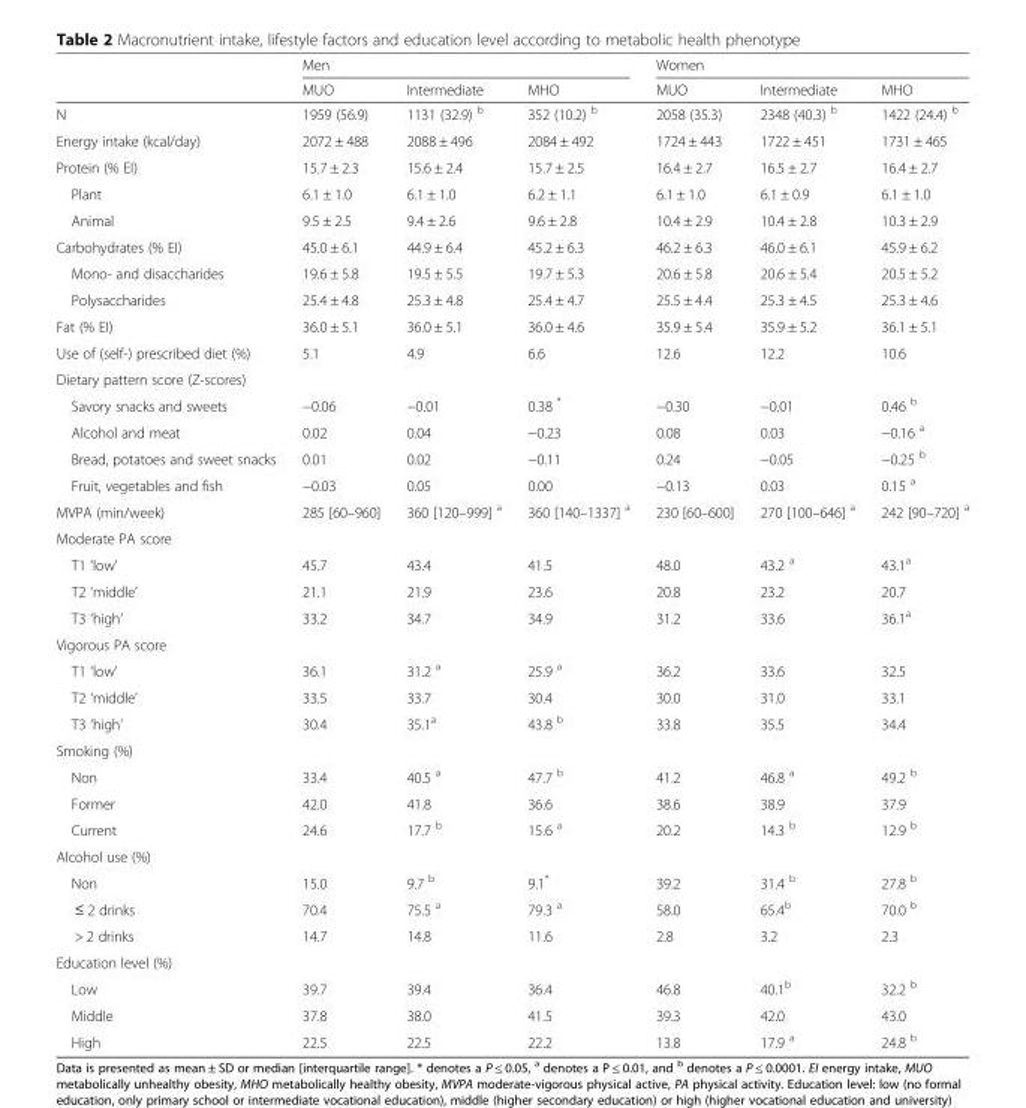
<table><thead><tr><td rowspan="2"></td><td colspan="3">Men</td><td colspan="3">Women</td></tr><tr><td>MUO</td><td>Intermediate</td><td>MHO</td><td>MUO</td><td>Intermediate</td><td>MHO</td></tr></thead><tbody><tr><td>N</td><td>1959 (56.9)</td><td>1131 (32.9) <sup>b</sup></td><td>352 (10.2) <sup>b</sup></td><td>2058 (35.3)</td><td>2348 (40.3) <sup>b</sup></td><td>1422 (24.4) <sup>b</sup></td></tr><tr><td>Energy intake (kcal/day)</td><td>2072 ± 488</td><td>2088 ± 496</td><td>2084 ± 492</td><td>1724 ± 443</td><td>1722 ± 451</td><td>1731 ± 465</td></tr><tr><td>Protein (% EI)</td><td>15.7 ± 2.3</td><td>15.6 ± 2.4</td><td>15.7 ± 2.5</td><td>16.4 ± 2.7</td><td>16.5 ± 2.7</td><td>16.4 ± 2.7</td></tr><tr><td>Plant</td><td>6.1 ± 1.0</td><td>6.1 ± 1.0</td><td>6.2 ± 1.1</td><td>6.1 ± 1.0</td><td>6.1 ± 0.9</td><td>6.1 ± 1.0</td></tr><tr><td>Animal</td><td>9.5 ± 2.5</td><td>9.4 ± 2.6</td><td>9.6 ± 2.8</td><td>10.4 ± 2.9</td><td>10.4 ± 2.8</td><td>10.3 ± 2.9</td></tr><tr><td>Carbohydrates (% EI)</td><td>45.0 ± 6.1</td><td>44.9 ± 6.4</td><td>45.2 ± 6.3</td><td>46.2 ± 6.3</td><td>46.0 ± 6.1</td><td>45.9 ± 6.2</td></tr><tr><td>Mono- and disaccharides</td><td>19.6 ± 5.8</td><td>19.5 ± 5.5</td><td>19.7 ± 5.3</td><td>20.6 ± 5.8</td><td>20.6 ± 5.4</td><td>20.5 ± 5.2</td></tr><tr><td>Polysaccharides</td><td>25.4 ± 4.8</td><td>25.3 ± 4.8</td><td>25.4 ± 4.7</td><td>25.5 ± 4.4</td><td>25.3 ± 4.5</td><td>25.3 ± 4.6</td></tr><tr><td>Fat (% EI)</td><td>36.0 ± 5.1</td><td>36.0 ± 5.1</td><td>36.0 ± 4.6</td><td>35.9 ± 5.4</td><td>35.9 ± 5.2</td><td>36.1 ± 5.1</td></tr><tr><td>Use of (self-) prescribed diet (%)</td><td>5.1</td><td>4.9</td><td>6.6</td><td>12.6</td><td>12.2</td><td>10.6</td></tr><tr><td colspan="7">Dietary pattern score (Z-scores)</td></tr><tr><td>Savory snacks and sweets</td><td>−0.06</td><td>−0.01</td><td>0.38 *</td><td>−0.30</td><td>−0.01</td><td>0.46 <sup>b</sup></td></tr><tr><td>Alcohol and meat</td><td>0.02</td><td>0.04</td><td>−0.23</td><td>0.08</td><td>0.03</td><td>−0.16 <sup>a</sup></td></tr><tr><td>Bread, potatoes and sweet snacks</td><td>0.01</td><td>0.02</td><td>−0.11</td><td>0.24</td><td>−0.05</td><td>−0.25 <sup>b</sup></td></tr><tr><td>Fruit, vegetables and fish</td><td>−0.03</td><td>0.05</td><td>0.00</td><td>−0.13</td><td>0.03</td><td>0.15 <sup>a</sup></td></tr><tr><td>MVPA (min/week)</td><td>285 [60–960]</td><td>360 [120–999] <sup>a</sup></td><td>360 [140–1337] <sup>a</sup></td><td>230 [60–600]</td><td>270 [100–646] <sup>a</sup></td><td>242 [90–720] <sup>a</sup></td></tr><tr><td colspan="7">Moderate PA score</td></tr><tr><td>T1 ‘low’</td><td>45.7</td><td>43.4</td><td>41.5</td><td>48.0</td><td>43.2 <sup>a</sup></td><td>43.1<sup>a</sup></td></tr><tr><td>T2 ‘middle’</td><td>21.1</td><td>21.9</td><td>23.6</td><td>20.8</td><td>23.2</td><td>20.7</td></tr><tr><td>T3 ‘high’</td><td>33.2</td><td>34.7</td><td>34.9</td><td>31.2</td><td>33.6</td><td>36.1<sup>a</sup></td></tr><tr><td colspan="7">Vigorous PA score</td></tr><tr><td>T1 ‘low’</td><td>36.1</td><td>31.2 <sup>a</sup></td><td>25.9 <sup>a</sup></td><td>36.2</td><td>33.6</td><td>32.5</td></tr><tr><td>T2 ‘middle’</td><td>33.5</td><td>33.7</td><td>30.4</td><td>30.0</td><td>31.0</td><td>33.1</td></tr><tr><td>T3 ‘high’</td><td>30.4</td><td>35.1<sup>a</sup></td><td>43.8 <sup>b</sup></td><td>33.8</td><td>35.5</td><td>34.4</td></tr><tr><td colspan="7">Smoking (%)</td></tr><tr><td>Non</td><td>33.4</td><td>40.5 <sup>a</sup></td><td>47.7 <sup>b</sup></td><td>41.2</td><td>46.8 <sup>a</sup></td><td>49.2 <sup>b</sup></td></tr><tr><td>Former</td><td>42.0</td><td>41.8</td><td>36.6</td><td>38.6</td><td>38.9</td><td>37.9</td></tr><tr><td>Current</td><td>24.6</td><td>17.7 <sup>b</sup></td><td>15.6 <sup>a</sup></td><td>20.2</td><td>14.3 <sup>b</sup></td><td>12.9 <sup>b</sup></td></tr><tr><td colspan="7">Alcohol use (%)</td></tr><tr><td>Non</td><td>15.0</td><td>9.7 <sup>b</sup></td><td>9.1*</td><td>39.2</td><td>31.4 <sup>b</sup></td><td>27.8 <sup>b</sup></td></tr><tr><td>≤ 2 drinks</td><td>70.4</td><td>75.5 <sup>a</sup></td><td>79.3 <sup>a</sup></td><td>58.0</td><td>65.4<sup>b</sup></td><td>70.0 <sup>b</sup></td></tr><tr><td>&gt; 2 drinks</td><td>14.7</td><td>14.8</td><td>11.6</td><td>2.8</td><td>3.2</td><td>2.3</td></tr><tr><td colspan="7">Education level (%)</td></tr><tr><td>Low</td><td>39.7</td><td>39.4</td><td>36.4</td><td>46.8</td><td>40.1<sup>b</sup></td><td>32.2 <sup>b</sup></td></tr><tr><td>Middle</td><td>37.8</td><td>38.0</td><td>41.5</td><td>39.3</td><td>42.0</td><td>43.0</td></tr><tr><td>High</td><td>22.5</td><td>22.5</td><td>22.2</td><td>13.8</td><td>17.9 <sup>a</sup></td><td>24.8 <sup>b</sup></td></tr></tbody></table>